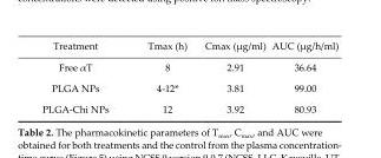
<table><thead><tr><td>Treatment</td><td>Tmax (h)</td><td>Cmax (µg/ml)</td><td>AUC (µg/h/ml)</td></tr></thead><tbody><tr><td>Free αT</td><td>8</td><td>2.91</td><td>36.64</td></tr><tr><td>PLGA NPs</td><td>4-12*</td><td>3.81</td><td>99.00</td></tr><tr><td>PLGA-Chi NPs</td><td>12</td><td>3.92</td><td>80.93</td></tr></tbody></table>